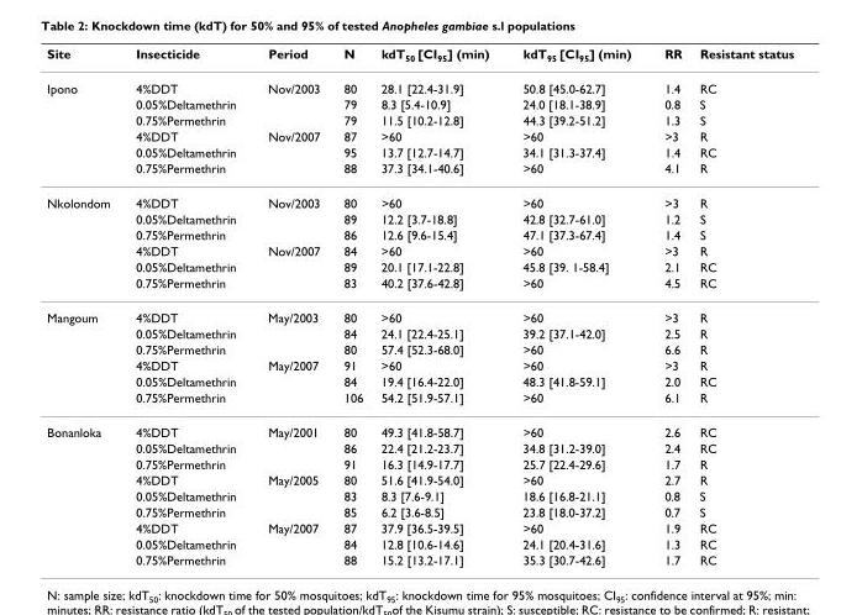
<table><thead><tr><td>Site</td><td>Insecticide</td><td>Period</td><td>N</td><td>kdT<sub>50</sub> [CI<sub>95</sub>] (min)</td><td>kdT<sub>95</sub> [CI<sub>95</sub>] (min)</td><td>RR</td><td>Resistant status</td></tr></thead><tbody><tr><td rowspan="6">Ipono</td><td>4%DDT</td><td>Nov/2003</td><td>80</td><td>28.1 [22.4-31.9]</td><td>50.8 [45.0-62.7]</td><td>1.4</td><td>RC</td></tr><tr><td>0.05%Deltamethrin</td><td></td><td>79</td><td>8.3 [5.4-10.9]</td><td>24.0 [18.1-38.9]</td><td>0.8</td><td>S</td></tr><tr><td>0.75%Permethrin</td><td></td><td>79</td><td>11.5 [10.2-12.8]</td><td>44.3 [39.2-51.2]</td><td>1.3</td><td>S</td></tr><tr><td>4%DDT</td><td>Nov/2007</td><td>87</td><td>&gt;60</td><td>&gt;60</td><td>&gt;3</td><td>R</td></tr><tr><td>0.05%Deltamethrin</td><td></td><td>95</td><td>13.7 [12.7-14.7]</td><td>34.1 [31.3-37.4]</td><td>1.4</td><td>RC</td></tr><tr><td>0.75%Permethrin</td><td></td><td>88</td><td>37.3 [34.1-40.6]</td><td>&gt;60</td><td>4.1</td><td>R</td></tr><tr><td rowspan="6">Nkolondom</td><td>4%DDT</td><td>Nov/2003</td><td>80</td><td>&gt;60</td><td>&gt;60</td><td>&gt;3</td><td>R</td></tr><tr><td>0.05%Deltamethrin</td><td></td><td>89</td><td>12.2 [3.7-18.8]</td><td>42.8 [32.7-61.0]</td><td>1.2</td><td>S</td></tr><tr><td>0.75%Permethrin</td><td></td><td>86</td><td>12.6 [9.6-15.4]</td><td>47.1 [37.3-67.4]</td><td>1.4</td><td>S</td></tr><tr><td>4%DDT</td><td>Nov/2007</td><td>84</td><td>&gt;60</td><td>&gt;60</td><td>&gt;3</td><td>R</td></tr><tr><td>0.05%Deltamethrin</td><td></td><td>89</td><td>20.1 [17.1-22.8]</td><td>45.8 [39. 1-58.4]</td><td>2.1</td><td>RC</td></tr><tr><td>0.75%Permethrin</td><td></td><td>83</td><td>40.2 [37.6-42.8]</td><td>&gt;60</td><td>4.5</td><td>RC</td></tr><tr><td rowspan="6">Mangoum</td><td>4%DDT</td><td>May/2003</td><td>80</td><td>&gt;60</td><td>&gt;60</td><td>&gt;3</td><td>R</td></tr><tr><td>0.05%Deltamethrin</td><td></td><td>84</td><td>24.1 [22.4-25.1]</td><td>39.2 [37.1-42.0]</td><td>2.5</td><td>R</td></tr><tr><td>0.75%Permethrin</td><td></td><td>80</td><td>57.4 [52.3-68.0]</td><td>&gt;60</td><td>6.6</td><td>R</td></tr><tr><td>4%DDT</td><td>May/2007</td><td>91</td><td>&gt;60</td><td>&gt;60</td><td>&gt;3</td><td>R</td></tr><tr><td>0.05%Deltamethrin</td><td></td><td>84</td><td>19.4 [16.4-22.0]</td><td>48.3 [41.8-59.1]</td><td>2.0</td><td>RC</td></tr><tr><td>0.75%Permethrin</td><td></td><td>106</td><td>54.2 [51.9-57.1]</td><td>&gt;60</td><td>6.1</td><td>R</td></tr><tr><td rowspan="9">Bonanloka</td><td>4%DDT</td><td>May/2001</td><td>80</td><td>49.3 [41.8-58.7]</td><td>&gt;60</td><td>2.6</td><td>RC</td></tr><tr><td>0.05%Deltamethrin</td><td></td><td>86</td><td>22.4 [21.2-23.7]</td><td>34.8 [31.2-39.0]</td><td>2.4</td><td>RC</td></tr><tr><td>0.75%Permethrin</td><td></td><td>91</td><td>16.3 [14.9-17.7]</td><td>25.7 [22.4-29.6]</td><td>1.7</td><td>R</td></tr><tr><td>4%DDT</td><td>May/2005</td><td>80</td><td>51.6 [41.9-54.0]</td><td>&gt;60</td><td>2.7</td><td>R</td></tr><tr><td>0.05%Deltamethrin</td><td></td><td>83</td><td>8.3 [7.6-9.1]</td><td>18.6 [16.8-21.1]</td><td>0.8</td><td>S</td></tr><tr><td>0.75%Permethrin</td><td></td><td>85</td><td>6.2 [3.6-8.5]</td><td>23.8 [18.0-37.2]</td><td>0.7</td><td>S</td></tr><tr><td>4%DDT</td><td>May/2007</td><td>87</td><td>37.9 [36.5-39.5]</td><td>&gt;60</td><td>1.9</td><td>RC</td></tr><tr><td>0.05%Deltamethrin</td><td></td><td>84</td><td>12.8 [10.6-14.6]</td><td>24.1 [20.4-31.6]</td><td>1.3</td><td>RC</td></tr><tr><td>0.75%Permethrin</td><td></td><td>88</td><td>15.2 [13.2-17.1]</td><td>35.3 [30.7-42.6]</td><td>1.7</td><td>RC</td></tr></tbody></table>